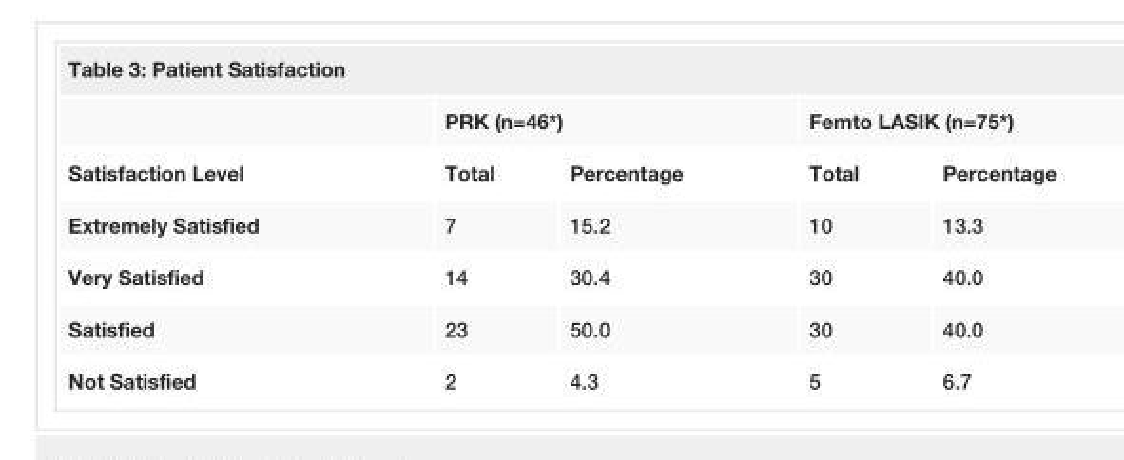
<table><tbody><tr><td colspan="5">Table 3: Patient Satisfaction</td></tr><tr><td></td><td colspan="2">PRK (n=46*)</td><td colspan="2">Femto LASIK (n=75*)</td></tr><tr><td>Satisfaction Level</td><td>Total</td><td>Percentage</td><td>Total</td><td>Percentage</td></tr><tr><td>Extremely Satisfied</td><td>7</td><td>15.2</td><td>10</td><td>13.3</td></tr><tr><td>Very Satisfied</td><td>14</td><td>30.4</td><td>30</td><td>40.0</td></tr><tr><td>Satisfied</td><td>23</td><td>50.0</td><td>30</td><td>40.0</td></tr><tr><td>Not Satisfied</td><td>2</td><td>4.3</td><td>5</td><td>6.7</td></tr></tbody></table>